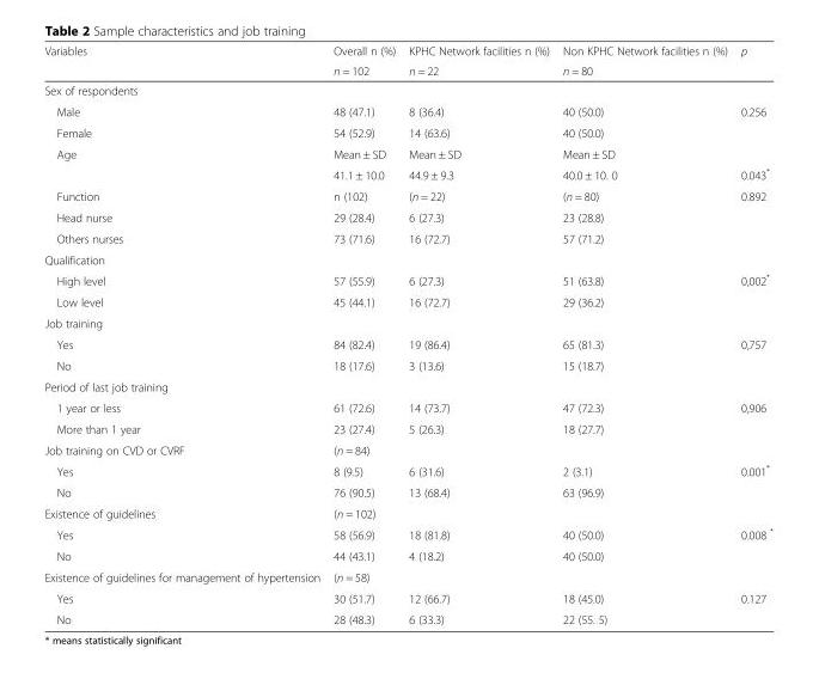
<table><thead><tr><td rowspan="2">Variables</td><td rowspan="2">Overall n (%) n = 102</td><td rowspan="2">KPHC Network facilities n (%) n = 22</td><td rowspan="2">Non KPHC Network facilities n (%) n = 80</td><td rowspan="2">p</td></tr><tr></tr></thead><tbody><tr><td colspan="5">Sex of respondents</td></tr><tr><td>Male</td><td>48 (47.1)</td><td>8 (36.4)</td><td>40 (50.0)</td><td>0.256</td></tr><tr><td>Female</td><td>54 (52.9)</td><td>14 (63.6)</td><td>40 (50.0)</td><td></td></tr><tr><td rowspan="2">Age</td><td>Mean ± SD</td><td>Mean ± SD</td><td>Mean ± SD</td><td></td></tr><tr><td>41.1 ± 10.0</td><td>44.9 ± 9.3</td><td>40.0 ± 10. 0</td><td>0.043*</td></tr><tr><td>Function</td><td>n (102)</td><td>(n = 22)</td><td>(n = 80)</td><td>0.892</td></tr><tr><td>Head nurse</td><td>29 (28.4)</td><td>6 (27.3)</td><td>23 (28.8)</td><td></td></tr><tr><td>Others nurses</td><td>73 (71.6)</td><td>16 (72.7)</td><td>57 (71.2)</td><td></td></tr><tr><td colspan="5">Qualification</td></tr><tr><td>High level</td><td>57 (55.9)</td><td>6 (27.3)</td><td>51 (63.8)</td><td>0,002*</td></tr><tr><td>Low level</td><td>45 (44.1)</td><td>16 (72.7)</td><td>29 (36.2)</td><td></td></tr><tr><td colspan="5">Job training</td></tr><tr><td>Yes</td><td>84 (82.4)</td><td>19 (86.4)</td><td>65 (81.3)</td><td>0,757</td></tr><tr><td>No</td><td>18 (17.6)</td><td>3 (13.6)</td><td>15 (18.7)</td><td></td></tr><tr><td colspan="5">Period of last job training</td></tr><tr><td>1 year or less</td><td>61 (72.6)</td><td>14 (73.7)</td><td>47 (72.3)</td><td>0,906</td></tr><tr><td>More than 1 year</td><td>23 (27.4)</td><td>5 (26.3)</td><td>18 (27.7)</td><td></td></tr><tr><td>Job training on CVD or CVRF</td><td>(n = 84)</td><td></td><td></td><td></td></tr><tr><td>Yes</td><td>8 (9.5)</td><td>6 (31.6)</td><td>2 (3.1)</td><td>0.001*</td></tr><tr><td>No</td><td>76 (90.5)</td><td>13 (68.4)</td><td>63 (96.9)</td><td></td></tr><tr><td>Existence of guidelines</td><td>(n = 102)</td><td></td><td></td><td></td></tr><tr><td>Yes</td><td>58 (56.9)</td><td>18 (81.8)</td><td>40 (50.0)</td><td>0.008 *</td></tr><tr><td>No</td><td>44 (43.1)</td><td>4 (18.2)</td><td>40 (50.0)</td><td></td></tr><tr><td>Existence of guidelines for management of hypertension</td><td>(n = 58)</td><td></td><td></td><td></td></tr><tr><td>Yes</td><td>30 (51.7)</td><td>12 (66.7)</td><td>18 (45.0)</td><td>0.127</td></tr><tr><td>No</td><td>28 (48.3)</td><td>6 (33.3)</td><td>22 (55. 5)</td><td></td></tr></tbody></table>